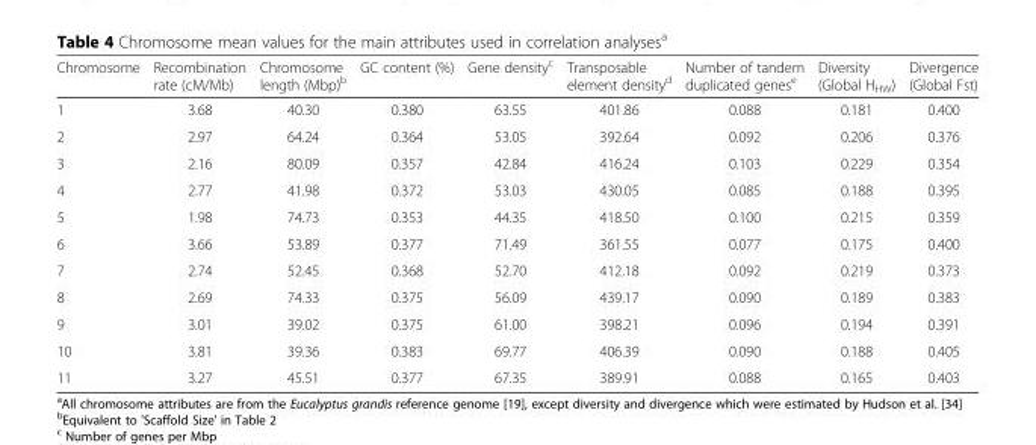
<table><thead><tr><td>Chromosome</td><td>Recombination rate (cM/Mb)</td><td>Chromosome length (Mbp)<sup>b</sup></td><td>GC content (%)</td><td>Gene density<sup>c</sup></td><td>Transposable element density<sup>d</sup></td><td>Number of tandem duplicated genes<sup>e</sup></td><td>Diversity (Global H<sub>HW</sub>)</td><td>Divergence (Global Fst)</td></tr></thead><tbody><tr><td>1</td><td>3.68</td><td>40.30</td><td>0.380</td><td>63.55</td><td>401.86</td><td>0.088</td><td>0.181</td><td>0.400</td></tr><tr><td>2</td><td>2.97</td><td>64.24</td><td>0.364</td><td>53.05</td><td>392.64</td><td>0.092</td><td>0.206</td><td>0.376</td></tr><tr><td>3</td><td>2.16</td><td>80.09</td><td>0.357</td><td>42.84</td><td>416.24</td><td>0.103</td><td>0.229</td><td>0.354</td></tr><tr><td>4</td><td>2.77</td><td>41.98</td><td>0.372</td><td>53.03</td><td>430.05</td><td>0.085</td><td>0.188</td><td>0.395</td></tr><tr><td>5</td><td>1.98</td><td>74.73</td><td>0.353</td><td>44.35</td><td>418.50</td><td>0.100</td><td>0.215</td><td>0.359</td></tr><tr><td>6</td><td>3.66</td><td>53.89</td><td>0.377</td><td>71.49</td><td>361.55</td><td>0.077</td><td>0.175</td><td>0.400</td></tr><tr><td>7</td><td>2.74</td><td>52.45</td><td>0.368</td><td>52.70</td><td>412.18</td><td>0.092</td><td>0.219</td><td>0.373</td></tr><tr><td>8</td><td>2.69</td><td>74.33</td><td>0.375</td><td>56.09</td><td>439.17</td><td>0.090</td><td>0.189</td><td>0.383</td></tr><tr><td>9</td><td>3.01</td><td>39.02</td><td>0.375</td><td>61.00</td><td>398.21</td><td>0.096</td><td>0.194</td><td>0.391</td></tr><tr><td>10</td><td>3.81</td><td>39.36</td><td>0.383</td><td>69.77</td><td>406.39</td><td>0.090</td><td>0.188</td><td>0.405</td></tr><tr><td>11</td><td>3.27</td><td>45.51</td><td>0.377</td><td>67.35</td><td>389.91</td><td>0.088</td><td>0.165</td><td>0.403</td></tr></tbody></table>